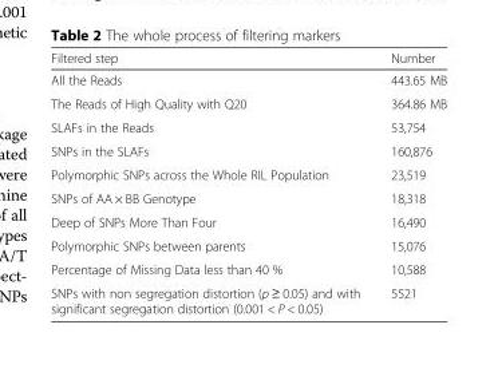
<table><thead><tr><td>Filtered step</td><td>Number</td></tr></thead><tbody><tr><td>All the Reads</td><td>443.65 MB</td></tr><tr><td>The Reads of High Quality with Q20</td><td>364.86 MB</td></tr><tr><td>SLAFs in the Reads</td><td>53,754</td></tr><tr><td>SNPs in the SLAFs</td><td>160,876</td></tr><tr><td>Polymorphic SNPs across the Whole RIL Population</td><td>23,519</td></tr><tr><td>SNPs of AA × BB Genotype</td><td>18,318</td></tr><tr><td>Deep of SNPs More Than Four</td><td>16,490</td></tr><tr><td>Polymorphic SNPs between parents</td><td>15,076</td></tr><tr><td>Percentage of Missing Data less than 40 %</td><td>10,588</td></tr><tr><td>SNPs with non segregation distortion (p ≥ 0.05) and with significant segregation distortion (0.001 &lt; P &lt; 0.05)</td><td>5521</td></tr></tbody></table>